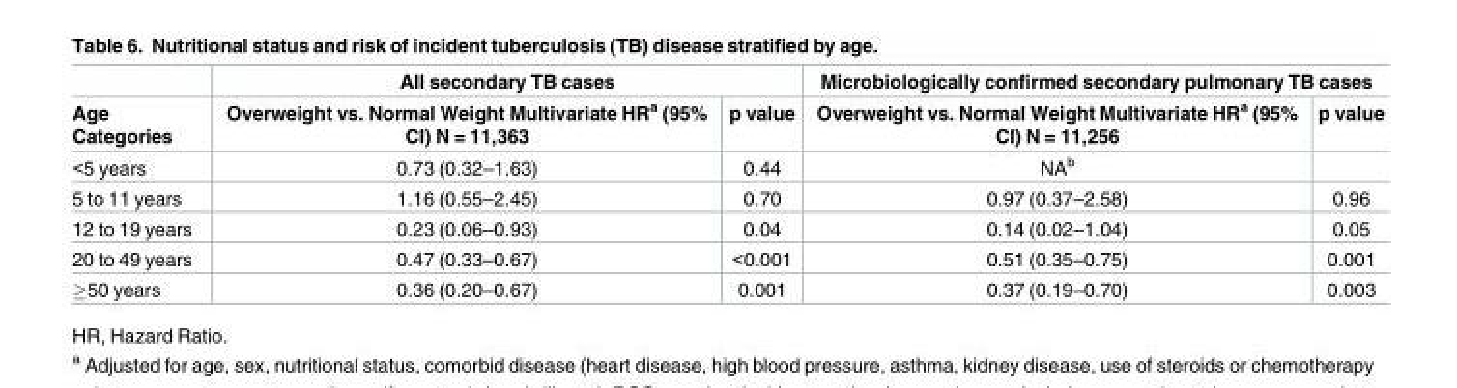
<table><thead><tr><td rowspan="2">Age Categories</td><td colspan="2">All secondary TB cases</td><td colspan="2">Microbiologically confirmed secondary pulmonary TB cases</td></tr><tr><td>Overweight vs. Normal Weight Multivariate HR<sup>a</sup> (95% CI) N = 11,363</td><td>p value</td><td>Overweight vs. Normal Weight Multivariate HR<sup>a</sup> (95% CI) N = 11,256</td><td>p value</td></tr></thead><tbody><tr><td>&lt;5 years</td><td>0.73 (0.32–1.63)</td><td>0.44</td><td>NA<sup>b</sup></td><td></td></tr><tr><td>5 to 11 years</td><td>1.16 (0.55–2.45)</td><td>0.70</td><td>0.97 (0.37–2.58)</td><td>0.96</td></tr><tr><td>12 to 19 years</td><td>0.23 (0.06–0.93)</td><td>0.04</td><td>0.14 (0.02–1.04)</td><td>0.05</td></tr><tr><td>20 to 49 years</td><td>0.47 (0.33–0.67)</td><td>&lt;0.001</td><td>0.51 (0.35–0.75)</td><td>0.001</td></tr><tr><td>≥50 years</td><td>0.36 (0.20–0.67)</td><td>0.001</td><td>0.37 (0.19–0.70)</td><td>0.003</td></tr></tbody></table>